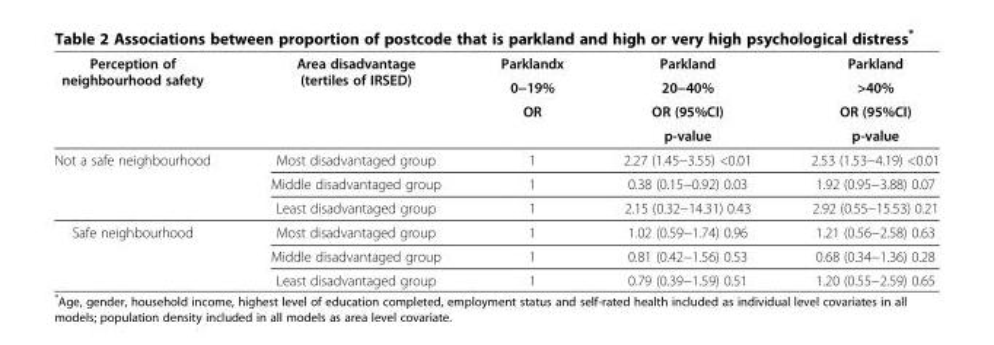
<table><thead><tr><td rowspan="4">Perception of neighbourhood safety</td><td rowspan="4">Area disadvantage (tertiles of IRSED)</td><td rowspan="4">Parklandx 0−19% OR</td><td rowspan="4">Parkland 20−40% OR (95%CI) p-value</td><td rowspan="4">Parkland &gt;40% OR (95%CI) p-value</td></tr><tr></tr><tr></tr><tr></tr></thead><tbody><tr><td rowspan="3">Not a safe neighbourhood</td><td>Most disadvantaged group</td><td>1</td><td>2.27 (1.45−3.55) &lt;0.01</td><td>2.53 (1.53−4.19) &lt;0.01</td></tr><tr><td>Middle disadvantaged group</td><td>1</td><td>0.38 (0.15−0.92) 0.03</td><td>1.92 (0.95−3.88) 0.07</td></tr><tr><td>Least disadvantaged group</td><td>1</td><td>2.15 (0.32−14.31) 0.43</td><td>2.92 (0.55−15.53) 0.21</td></tr><tr><td rowspan="3">Safe neighbourhood</td><td>Most disadvantaged group</td><td>1</td><td>1.02 (0.59−1.74) 0.96</td><td>1.21 (0.56−2.58) 0.63</td></tr><tr><td>Middle disadvantaged group</td><td>1</td><td>0.81 (0.42−1.56) 0.53</td><td>0.68 (0.34−1.36) 0.28</td></tr><tr><td>Least disadvantaged group</td><td>1</td><td>0.79 (0.39−1.59) 0.51</td><td>1.20 (0.55−2.59) 0.65</td></tr></tbody></table>